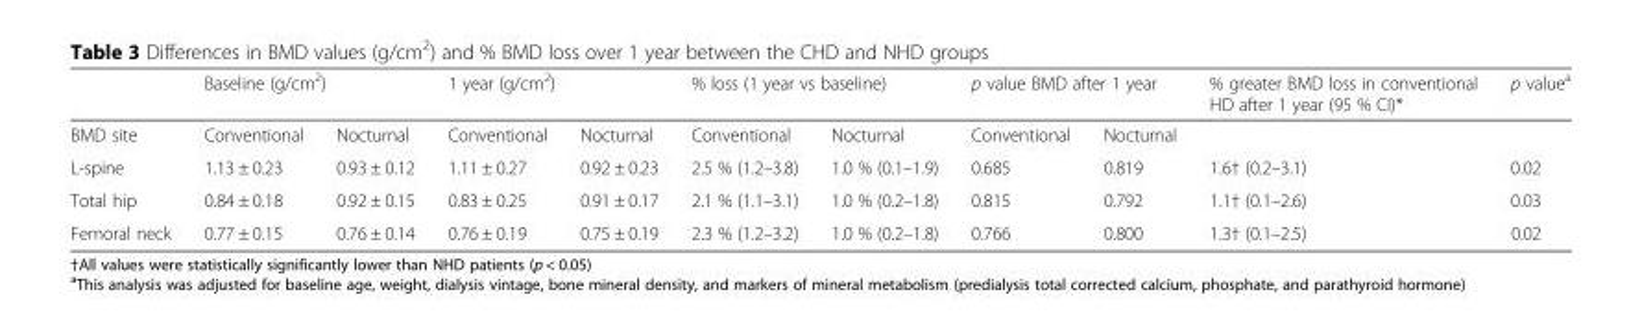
<table><thead><tr><td rowspan="2">BMD site</td><td colspan="2">Baseline (g/cm<sup>2</sup>)</td><td colspan="2">1 year (g/cm<sup>2</sup>)</td><td colspan="2">% loss (1 year vs baseline)</td><td colspan="2">p value BMD after 1 year</td><td rowspan="2">% greater BMD loss in conventional HD after 1 year (95 % CI)*</td><td rowspan="2">p value<sup>a</sup></td></tr><tr><td>Conventional</td><td>Nocturnal</td><td>Conventional</td><td>Nocturnal</td><td>Conventional</td><td>Nocturnal</td><td>Conventional</td><td>Nocturnal</td></tr></thead><tbody><tr><td>L-spine</td><td>1.13 ± 0.23</td><td>0.93 ± 0.12</td><td>1.11 ± 0.27</td><td>0.92 ± 0.23</td><td>2.5 % (1.2–3.8)</td><td>1.0 % (0.1–1.9)</td><td>0.685</td><td>0.819</td><td>1.6† (0.2–3.1)</td><td>0.02</td></tr><tr><td>Total hip</td><td>0.84 ± 0.18</td><td>0.92 ± 0.15</td><td>0.83 ± 0.25</td><td>0.91 ± 0.17</td><td>2.1 % (1.1–3.1)</td><td>1.0 % (0.2–1.8)</td><td>0.815</td><td>0.792</td><td>1.1† (0.1–2.6)</td><td>0.03</td></tr><tr><td>Femoral neck</td><td>0.77 ± 0.15</td><td>0.76 ± 0.14</td><td>0.76 ± 0.19</td><td>0.75 ± 0.19</td><td>2.3 % (1.2–3.2)</td><td>1.0 % (0.2–1.8)</td><td>0.766</td><td>0.800</td><td>1.3† (0.1–2.5)</td><td>0.02</td></tr></tbody></table>